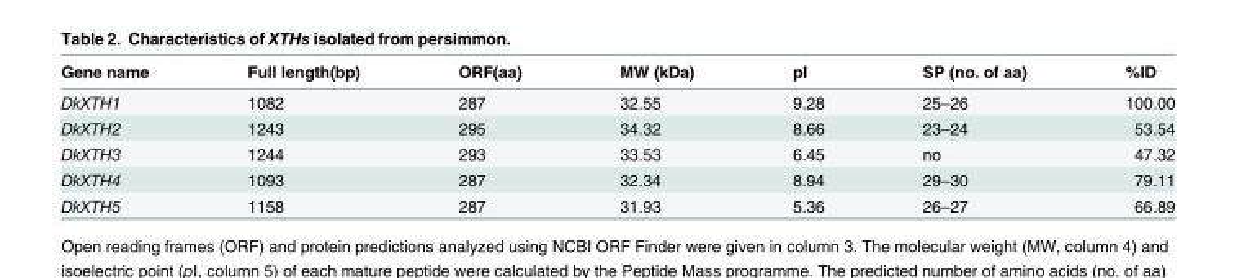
<table><thead><tr><td>Gene name</td><td>Full length(bp)</td><td>ORF(aa)</td><td>MW (kDa)</td><td>pI</td><td>SP (no. of aa)</td><td>%ID</td></tr></thead><tbody><tr><td>DkXTH1</td><td>1082</td><td>287</td><td>32.55</td><td>9.28</td><td>25–26</td><td>100.00</td></tr><tr><td>DkXTH2</td><td>1243</td><td>295</td><td>34.32</td><td>8.66</td><td>23–24</td><td>53.54</td></tr><tr><td>DkXTH3</td><td>1244</td><td>293</td><td>33.53</td><td>6.45</td><td>no</td><td>47.32</td></tr><tr><td>DkXTH4</td><td>1093</td><td>287</td><td>32.34</td><td>8.94</td><td>29–30</td><td>79.11</td></tr><tr><td>DkXTH5</td><td>1158</td><td>287</td><td>31.93</td><td>5.36</td><td>26–27</td><td>66.89</td></tr></tbody></table>